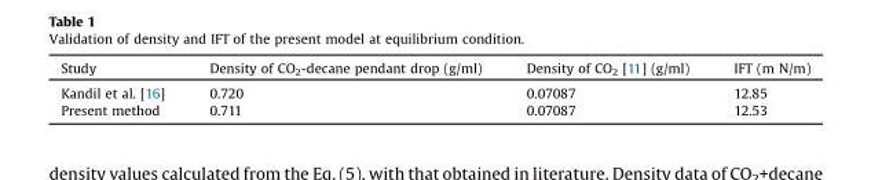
<table><thead><tr><td>Study</td><td>Density of CO<sub>2</sub>-decane pendant drop (g/ml)</td><td>Density of CO<sub>2</sub> [11] (g/ml)</td><td>IFT (m N/m)</td></tr></thead><tbody><tr><td>Kandil et al. [16]</td><td>0.720</td><td>0.07087</td><td>12.85</td></tr><tr><td>Present method</td><td>0.711</td><td>0.07087</td><td>12.53</td></tr></tbody></table>